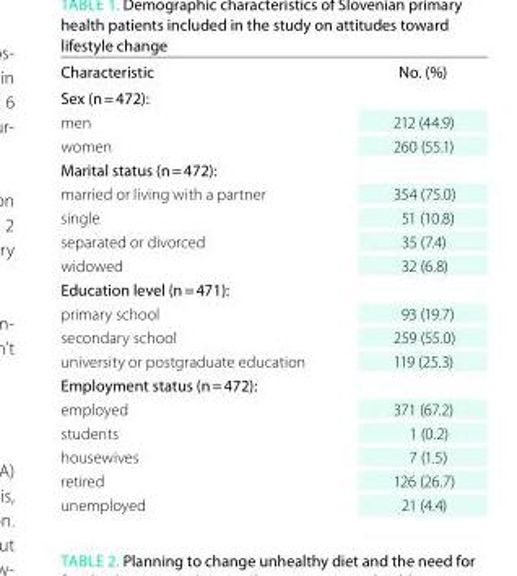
<table><thead><tr><td>Characteristic</td><td>No. (%)</td></tr></thead><tbody><tr><td colspan="2">sex (n = 472):</td></tr><tr><td>men</td><td>212 (44.9)</td></tr><tr><td>women</td><td>260 (55.1)</td></tr><tr><td colspan="2">Marital status (n = 472):</td></tr><tr><td>married or living with a partner</td><td>354 (75.0)</td></tr><tr><td>single</td><td>51 (10.8)</td></tr><tr><td>separated or divorced</td><td>35 (7.4)</td></tr><tr><td>widowed</td><td>32 (6.8)</td></tr><tr><td colspan="2">education level (n = 471):</td></tr><tr><td>primary school</td><td>93 (19.7)</td></tr><tr><td>secondary school</td><td>259 (55.0)</td></tr><tr><td>university or postgraduate education</td><td>119 (25.3)</td></tr><tr><td colspan="2">employment status (n = 472):</td></tr><tr><td>employed</td><td>371 (67.2)</td></tr><tr><td>students</td><td>1 (0.2)</td></tr><tr><td>housewives</td><td>7 (1.5)</td></tr><tr><td>retired</td><td>126 (26.7)</td></tr><tr><td>unemployed</td><td>21 (4.4)</td></tr></tbody></table>